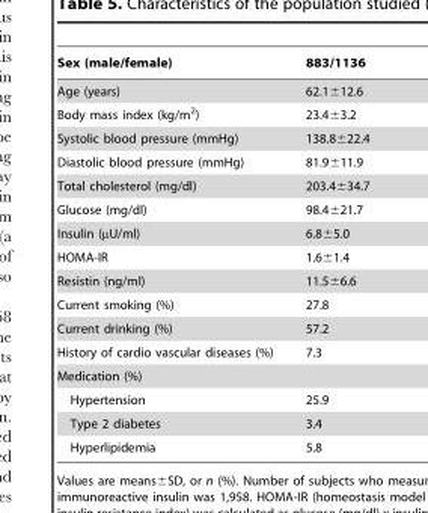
<table><thead><tr><td>Sex (male/female)</td><td>883/1136</td></tr></thead><tbody><tr><td>Age (years)</td><td>62.1±12.6</td></tr><tr><td>Body mass index (kg/m<sup>2</sup>)</td><td>23.4±3.2</td></tr><tr><td>Systolic blood pressure (mmHg)</td><td>138.8±22.4</td></tr><tr><td>Diastolic blood pressure (mmHg)</td><td>81.9±11.9</td></tr><tr><td>Total cholesterol (mg/dl)</td><td>203.4±34.7</td></tr><tr><td>Glucose (mg/dl)</td><td>98.4±21.7</td></tr><tr><td>Insulin (µU/ml)</td><td>6.8±5.0</td></tr><tr><td>HOMA-IR</td><td>1.6±1.4</td></tr><tr><td>Resistin (ng/ml)</td><td>11.5±6.6</td></tr><tr><td>Current smoking (%)</td><td>27.8</td></tr><tr><td>Current drinking (%)</td><td>57.2</td></tr><tr><td>History of cardio vascular diseases (%)</td><td>7.3</td></tr><tr><td colspan="2">Medication (%)</td></tr><tr><td>Hypertension</td><td>25.9</td></tr><tr><td>Type 2 diabetes</td><td>3.4</td></tr><tr><td>Hyperlipidemia</td><td>5.8</td></tr></tbody></table>